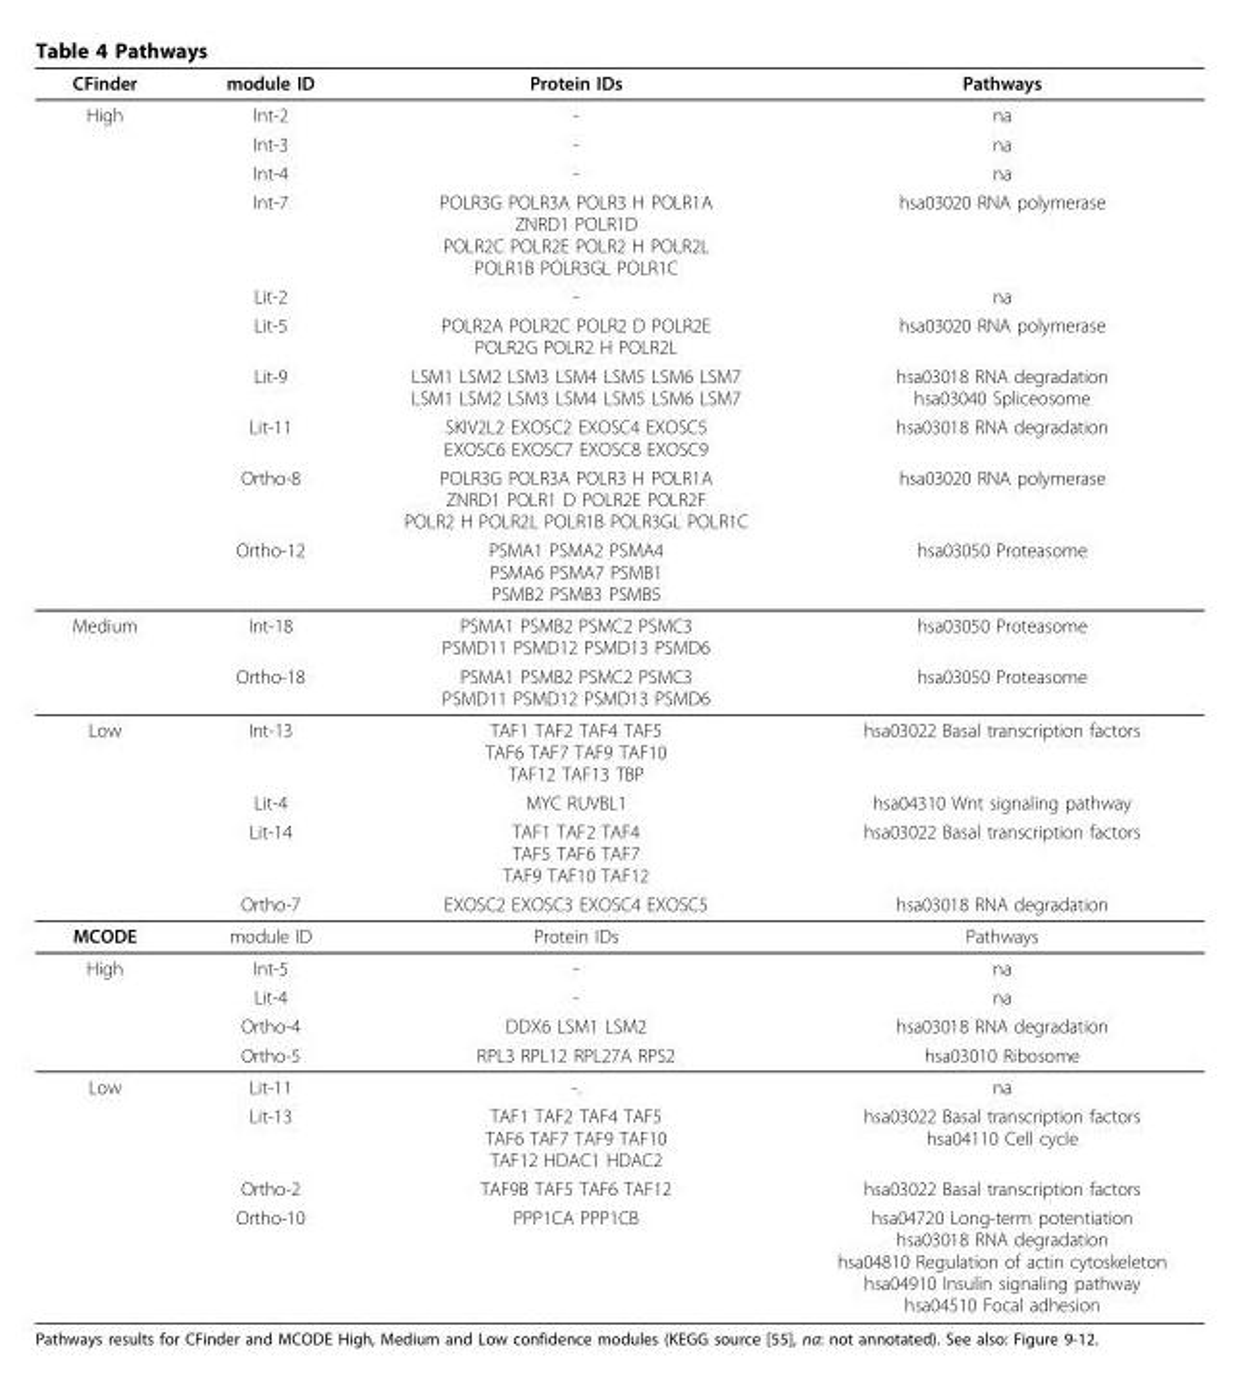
<table><thead><tr><td>CFinder</td><td>module ID</td><td>Protein IDs</td><td>Pathways</td></tr></thead><tbody><tr><td rowspan="10">High</td><td>Int-2</td><td>-</td><td>na</td></tr><tr><td>Int-3</td><td>-</td><td>na</td></tr><tr><td>Int-4</td><td>-</td><td>na</td></tr><tr><td>Int-7</td><td>POLR3G POLR3A POLR3 H POLR1A ZNRD1 POLR1D POLR2C POLR2E POLR2 H POLR2L POLR1B POLR3GL POLR1C</td><td>hsa03020 RNA polymerase</td></tr><tr><td>Lit-2</td><td>-</td><td>na</td></tr><tr><td>Lit-5</td><td>POLR2A POLR2C POLR2 D POLR2E POLR2G POLR2 H POLR2L</td><td>hsa03020 RNA polymerase</td></tr><tr><td>Lit-9</td><td>LSM1 LSM2 LSM3 LSM4 LSM5 LSM6 LSM7 LSM1 LSM2 LSM3 LSM4 LSM5 LSM6 LSM7</td><td>hsa03018 RNA degradation hsa03040 Spliceosome</td></tr><tr><td>Lit-11</td><td>SKIV2L2 EXOSC2 EXOSC4 EXOSC5 EXOSC6 EXOSC7 EXOSC8 EXOSC9</td><td>hsa03018 RNA degradation</td></tr><tr><td>Ortho-8</td><td>POLR3G POLR3A POLR3 H POLR1A ZNRD1 POLR1 D POLR2E POLR2F POLR2 H POLR2L POLR1B POLR3GL POLR1C</td><td>hsa03020 RNA polymerase</td></tr><tr><td>Ortho-12</td><td>PSMA1 PSMA2 PSMA4 PSMA6 PSMA7 PSMB1 PSMB2 PSMB3 PSMB5</td><td>hsa03050 Proteasome</td></tr><tr><td rowspan="2">Medium</td><td>Int-18</td><td>PSMA1 PSMB2 PSMC2 PSMC3 PSMD11 PSMD12 PSMD13 PSMD6</td><td>hsa03050 Proteasome</td></tr><tr><td>Ortho-18</td><td>PSMA1 PSMB2 PSMC2 PSMC3 PSMD11 PSMD12 PSMD13 PSMD6</td><td>hsa03050 Proteasome</td></tr><tr><td rowspan="4">Low</td><td>Int-13</td><td>TAF1 TAF2 TAF4 TAF5 TAF6 TAF7 TAF9 TAF10 TAF12 TAF13 TBP</td><td>hsa03022 Basal transcription factors</td></tr><tr><td>Lit-4</td><td>MYC RUVBL1</td><td>hsa04310 Wnt signaling pathway</td></tr><tr><td>Lit-14</td><td>TAF1 TAF2 TAF4 TAF5 TAF6 TAF7 TAF9 TAF10 TAF12</td><td>hsa03022 Basal transcription factors</td></tr><tr><td>Ortho-7</td><td>EXOSC2 EXOSC3 EXOSC4 EXOSC5</td><td>hsa03018 RNA degradation</td></tr><tr><td>MCODE</td><td>module ID</td><td>Protein IDs</td><td>Pathways</td></tr><tr><td rowspan="4">High</td><td>Int-5</td><td>-</td><td>na</td></tr><tr><td>Lit-4</td><td>-</td><td>na</td></tr><tr><td>Ortho-4</td><td>DDX6 LSM1 LSM2</td><td>hsa03018 RNA degradation</td></tr><tr><td>Ortho-5</td><td>RPL3 RPL12 RPL27A RPS2</td><td>hsa03010 Ribosome</td></tr><tr><td rowspan="4">Low</td><td>Lit-11</td><td>-.</td><td>na</td></tr><tr><td>Lit-13</td><td>TAF1 TAF2 TAF4 TAF5 TAF6 TAF7 TAF9 TAF10 TAF12 HDAC1 HDAC2</td><td>hsa03022 Basal transcription factors hsa04110 Cell cycle</td></tr><tr><td>Ortho-2</td><td>TAF9B TAF5 TAF6 TAF12</td><td>hsa03022 Basal transcription factors</td></tr><tr><td>Ortho-10</td><td>PPP1CA PPP1CB</td><td>hsa04720 Long-term potentiation hsa03018 RNA degradation hsa04810 Regulation of actin cytoskeleton hsa04910 Insulin signaling pathway hsa04510 Focal adhesion</td></tr></tbody></table>